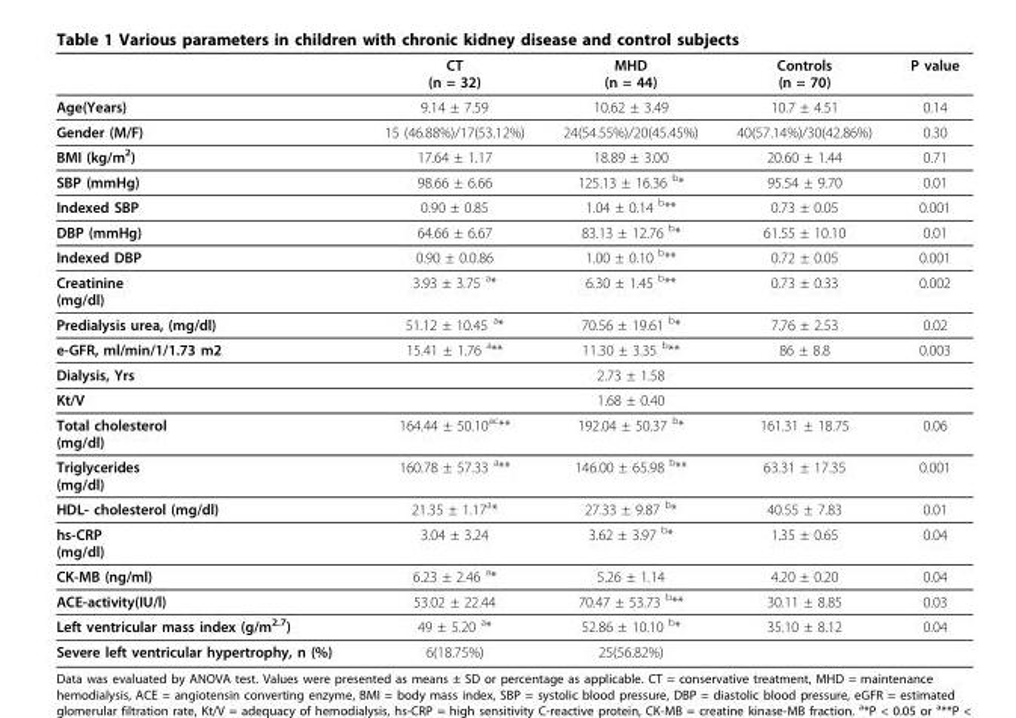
<table><thead><tr><td></td><td>CT (n = 32)</td><td>MHD (n = 44)</td><td>Controls (n = 70)</td><td>P value</td></tr></thead><tbody><tr><td>Age(Years)</td><td>9.14 ± 7.59</td><td>10.62 ± 3.49</td><td>10.7 ± 4.51</td><td>0.14</td></tr><tr><td>Gender (M/F)</td><td>15 (46.88%)/17(53.12%)</td><td>24(54.55%)/20(45.45%)</td><td>40(57.14%)/30(42.86%)</td><td>0.30</td></tr><tr><td>BMI (kg/m<sup>2</sup>)</td><td>17.64 ± 1.17</td><td>18.89 ± 3.00</td><td>20.60 ± 1.44</td><td>0.71</td></tr><tr><td>SBP (mmHg)</td><td>98.66 ± 6.66</td><td>125.13 ± 16.36 <sup>b</sup>*</td><td>95.54 ± 9.70</td><td>0.01</td></tr><tr><td>Indexed SBP</td><td>0.90 ± 0.85</td><td>1.04 ± 0.14 <sup>b</sup>**</td><td>0.73 ± 0.05</td><td>0.001</td></tr><tr><td>DBP (mmHg)</td><td>64.66 ± 6.67</td><td>83.13 ± 12.76 <sup>b</sup>*</td><td>61.55 ± 10.10</td><td>0.01</td></tr><tr><td>Indexed DBP</td><td>0.90 ± 0.0.86</td><td>1.00 ± 0.10 <sup>b</sup>**</td><td>0.72 ± 0.05</td><td>0.001</td></tr><tr><td>Creatinine (mg/dl)</td><td>3.93 ± 3.75 <sup>a</sup>*</td><td>6.30 ± 1.45 <sup>b</sup>**</td><td>0.73 ± 0.33</td><td>0.002</td></tr><tr><td>Predialysis urea, (mg/dl)</td><td>51.12 ± 10.45 <sup>a</sup>*</td><td>70.56 ± 19.61 <sup>b</sup>*</td><td>7.76 ± 2.53</td><td>0.02</td></tr><tr><td>e-GFR, ml/min/1/1.73 m2</td><td>15.41 ± 1.76 <sup>a</sup>**</td><td>11.30 ± 3.35 <sup>b</sup>**</td><td>86 ± 8.8</td><td>0.003</td></tr><tr><td>Dialysis, Yrs</td><td></td><td>2.73 ± 1.58</td><td></td><td></td></tr><tr><td>Kt/V</td><td></td><td>1.68 ± 0.40</td><td></td><td></td></tr><tr><td>Total cholesterol (mg/dl)</td><td>164.44 ± 50.10<sup>ac</sup>**</td><td>192.04 ± 50.37 <sup>b</sup>*</td><td>161.31 ± 18.75</td><td>0.06</td></tr><tr><td>Triglycerides (mg/dl)</td><td>160.78 ± 57.33 <sup>a</sup>**</td><td>146.00 ± 65.98 <sup>b</sup>**</td><td>63.31 ± 17.35</td><td>0.001</td></tr><tr><td>HDL- cholesterol (mg/dl)</td><td>21.35 ± 1.17<sup>a</sup>*</td><td>27.33 ± 9.87 <sup>b</sup>*</td><td>40.55 ± 7.83</td><td>0.01</td></tr><tr><td>hs-CRP (mg/dl)</td><td>3.04 ± 3.24</td><td>3.62 ± 3.97 <sup>b</sup>*</td><td>1.35 ± 0.65</td><td>0.04</td></tr><tr><td>CK-MB (ng/ml)</td><td>6.23 ± 2.46 <sup>a</sup>*</td><td>5.26 ± 1.14</td><td>4.20 ± 0.20</td><td>0.04</td></tr><tr><td>ACE-activity(IU/l)</td><td>53.02 ± 22.44</td><td>70.47 ± 53.73 <sup>b</sup>**</td><td>30.11 ± 8.85</td><td>0.03</td></tr><tr><td>Left ventricular mass index (g/m<sup>2.7</sup>)</td><td>49 ± 5.20 <sup>a</sup>*</td><td>52.86 ± 10.10 <sup>b</sup>*</td><td>35.10 ± 8.12</td><td>0.04</td></tr><tr><td>Severe left ventricular hypertrophy, n (%)</td><td>6(18.75%)</td><td>25(56.82%)</td><td></td><td></td></tr></tbody></table>